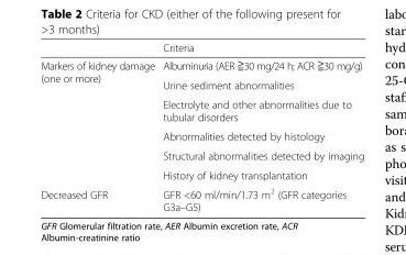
<table><thead><tr><td></td><td>Criteria</td></tr></thead><tbody><tr><td rowspan="6">Markers of kidney damage (one or more)</td><td>Albuminuria (AER ≧30 mg/24 h; ACR ≧30 mg/g)</td></tr><tr><td>Urine sediment abnormalities</td></tr><tr><td>Electrolyte and other abnormalities due to tubular disorders</td></tr><tr><td>Abnormalities detected by histology</td></tr><tr><td>Structural abnormalities detected by imaging</td></tr><tr><td>History of kidney transplantation</td></tr><tr><td>Decreased GFR</td><td>GFR &lt;60 ml/min/1.73 m<sup>2</sup> (GFR categories G3a–G5)</td></tr></tbody></table>